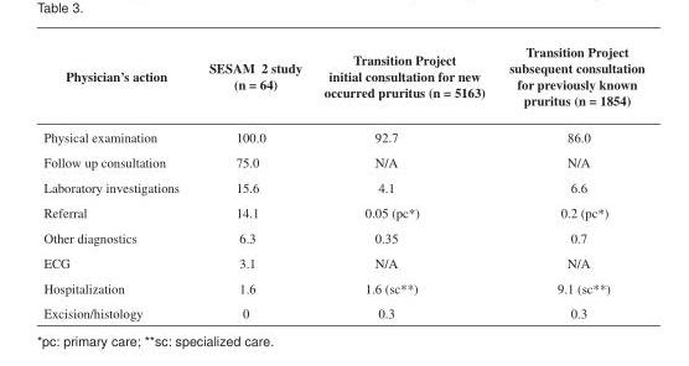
<table><thead><tr><td>Physician’s action</td><td>SESAM 2 study (n = 64)</td><td>Transition Project initial consultation for new occurred pruritus (n = 5163)</td><td>Transition Project subsequent consultation for previously known pruritus (n = 1854)</td></tr></thead><tbody><tr><td>Physical examination</td><td>100.0</td><td>92.7</td><td>86.0</td></tr><tr><td>Follow up consultation</td><td>75.0</td><td>N/A</td><td>N/A</td></tr><tr><td>Laboratory investigations</td><td>15.6</td><td>4.1</td><td>6.6</td></tr><tr><td>Referral</td><td>14.1</td><td>0.05 (pc*)</td><td>0.2 (pc*)</td></tr><tr><td>Other diagnostics</td><td>6.3</td><td>0.35</td><td>0.7</td></tr><tr><td>ECG</td><td>3.1</td><td>N/A</td><td>N/A</td></tr><tr><td>Hospitalization</td><td>1.6</td><td>1.6 (sc**)</td><td>9.1 (sc**)</td></tr><tr><td>Excision/histology</td><td>0</td><td>0.3</td><td>0.3</td></tr></tbody></table>